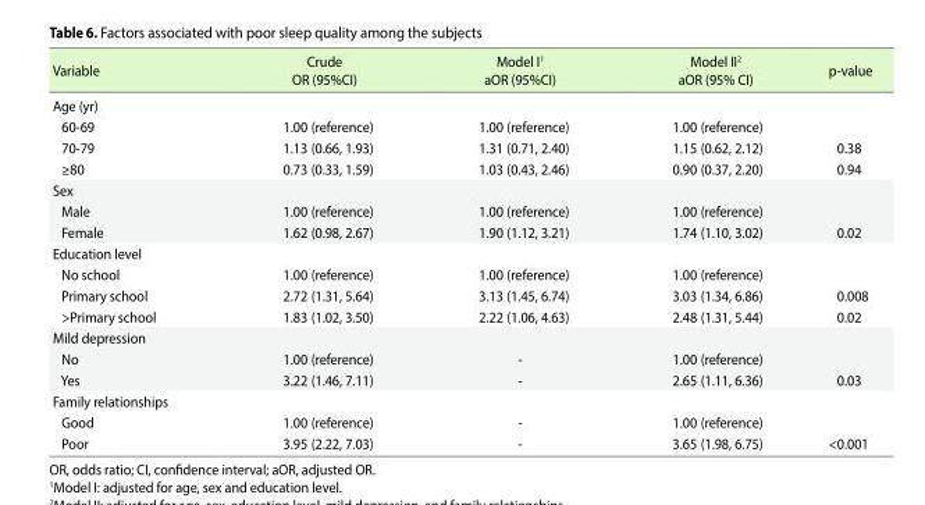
<table><thead><tr><td>Variable</td><td>Crude OR (95%CI)</td><td>Model I<sup>1</sup> aOR (95%CI)</td><td>Model II<sup>2</sup> aOR (95% CI)</td><td>p-value</td></tr></thead><tbody><tr><td colspan="5">Age (yr)</td></tr><tr><td>60-69</td><td>1.00 (reference)</td><td>1.00 (reference)</td><td>1.00 (reference)</td><td></td></tr><tr><td>70-79</td><td>1.13 (0.66, 1.93)</td><td>1.31 (0.71, 2.40)</td><td>1.15 (0.62, 2.12)</td><td>0.38</td></tr><tr><td>≥80</td><td>0.73 (0.33, 1.59)</td><td>1.03 (0.43, 2.46)</td><td>0.90 (0.37, 2.20)</td><td>0.94</td></tr><tr><td colspan="5">Sex</td></tr><tr><td>Male</td><td>1.00 (reference)</td><td>1.00 (reference)</td><td>1.00 (reference)</td><td></td></tr><tr><td>Female</td><td>1.62 (0.98, 2.67)</td><td>1.90 (1.12, 3.21)</td><td>1.74 (1.10, 3.02)</td><td>0.02</td></tr><tr><td colspan="5">Education level</td></tr><tr><td>No school</td><td>1.00 (reference)</td><td>1.00 (reference)</td><td>1.00 (reference)</td><td></td></tr><tr><td>Primary school</td><td>2.72 (1.31, 5.64)</td><td>3.13 (1.45, 6.74)</td><td>3.03 (1.34, 6.86)</td><td>0.008</td></tr><tr><td>&gt;Primary school</td><td>1.83 (1.02, 3.50)</td><td>2.22 (1.06, 4.63)</td><td>2.48 (1.31, 5.44)</td><td>0.02</td></tr><tr><td colspan="5">Mild depression</td></tr><tr><td>No</td><td>1.00 (reference)</td><td>-</td><td>1.00 (reference)</td><td></td></tr><tr><td>Yes</td><td>3.22 (1.46, 7.11)</td><td>-</td><td>2.65 (1.11, 6.36)</td><td>0.03</td></tr><tr><td colspan="5">Family relationships</td></tr><tr><td>Good</td><td>1.00 (reference)</td><td>-</td><td>1.00 (reference)</td><td></td></tr><tr><td>Poor</td><td>3.95 (2.22, 7.03)</td><td>-</td><td>3.65 (1.98, 6.75)</td><td>&lt;0.001</td></tr></tbody></table>